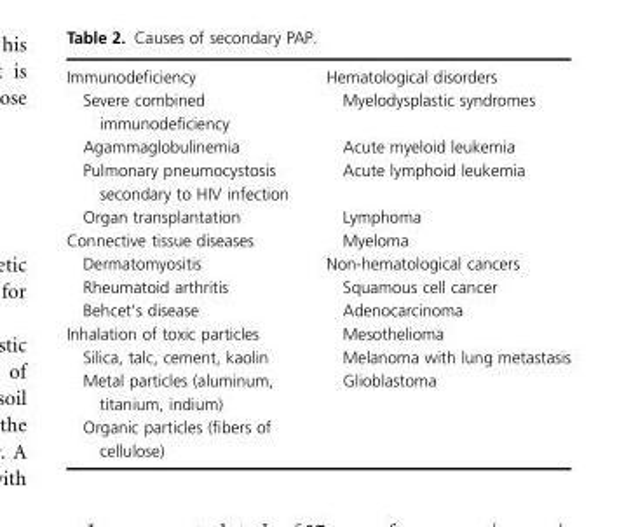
<table><tbody><tr><td>Immunodeficiency</td><td>Hematological disorders</td></tr><tr><td>Severe combined immunodeficiency</td><td>Myelodysplastic syndromes</td></tr><tr><td>Agammaglobulinemia</td><td>Acute myeloid leukemia</td></tr><tr><td>Pulmonary pneumocystosis secondary to HIV infection</td><td>Acute lymphoid leukemia</td></tr><tr><td>Organ transplantation</td><td>Lymphoma</td></tr><tr><td>Connective tissue diseases</td><td>Myeloma</td></tr><tr><td>Dermatomyositis</td><td>Non-hematological cancers</td></tr><tr><td>Rheumatoid arthritis</td><td>Squamous cell cancer</td></tr><tr><td>Behcet’s disease</td><td>Adenocarcinoma</td></tr><tr><td>Inhalation of toxic particles</td><td>Mesothelioma</td></tr><tr><td>Silica, talc, cement, kaolin</td><td>Melanoma with lung metastasis</td></tr><tr><td>Metal particles (aluminum, titanium, indium)</td><td>Glioblastoma</td></tr><tr><td>Organic particles (fibers of cellulose)</td><td></td></tr></tbody></table>